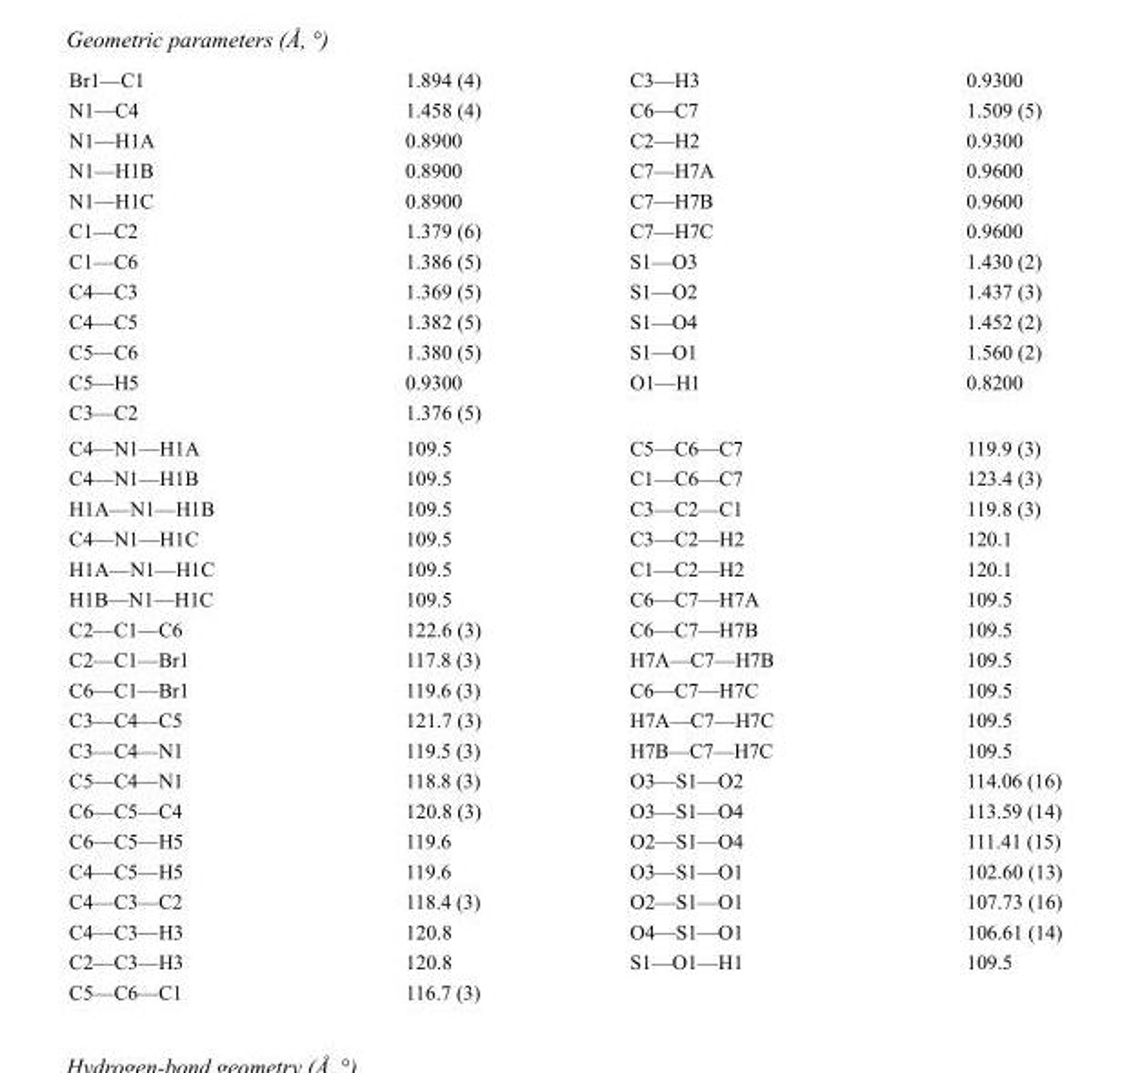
<table><tbody><tr><td>Br1—C1</td><td>1.894 (4)</td><td>C3—H3</td><td>0.9300</td></tr><tr><td>N1—C4</td><td>1.458 (4)</td><td>C6—C7</td><td>1.509 (5)</td></tr><tr><td>N1—H1A</td><td>0.8900</td><td>C2—H2</td><td>0.9300</td></tr><tr><td>N1—H1B</td><td>0.8900</td><td>C7—H7A</td><td>0.9600</td></tr><tr><td>N1—H1C</td><td>0.8900</td><td>C7—H7B</td><td>0.9600</td></tr><tr><td>C1—C2</td><td>1.379 (6)</td><td>C7—H7C</td><td>0.9600</td></tr><tr><td>C1—C6</td><td>1.386 (5)</td><td>S1—O3</td><td>1.430 (2)</td></tr><tr><td>C4—C3</td><td>1.369 (5)</td><td>S1—O2</td><td>1.437 (3)</td></tr><tr><td>C4—C5</td><td>1.382 (5)</td><td>S1—O4</td><td>1.452 (2)</td></tr><tr><td>C5—C6</td><td>1.380 (5)</td><td>S1—O1</td><td>1.560 (2)</td></tr><tr><td>C5—H5</td><td>0.9300</td><td>O1—H1</td><td>0.8200</td></tr><tr><td>C3—C2</td><td>1.376 (5)</td><td></td><td></td></tr><tr><td>C4—N1—H1A</td><td>109.5</td><td>C5—C6—C7</td><td>119.9 (3)</td></tr><tr><td>C4—N1—H1B</td><td>109.5</td><td>C1—C6—C7</td><td>123.4 (3)</td></tr><tr><td>H1A—N1—H1B</td><td>109.5</td><td>C3—C2—C1</td><td>119.8 (3)</td></tr><tr><td>C4—N1—H1C</td><td>109.5</td><td>C3—C2—H2</td><td>120.1</td></tr><tr><td>H1A—N1—H1C</td><td>109.5</td><td>C1—C2—H2</td><td>120.1</td></tr><tr><td>H1B—N1—H1C</td><td>109.5</td><td>C6—C7—H7A</td><td>109.5</td></tr><tr><td>C2—C1—C6</td><td>122.6 (3)</td><td>C6—C7—H7B</td><td>109.5</td></tr><tr><td>C2—C1—Br1</td><td>117.8 (3)</td><td>H7A—C7—H7B</td><td>109.5</td></tr><tr><td>C6—C1—Br1</td><td>119.6 (3)</td><td>C6—C7—H7C</td><td>109.5</td></tr><tr><td>C3—C4—C5</td><td>121.7 (3)</td><td>H7A—C7—H7C</td><td>109.5</td></tr><tr><td>C3—C4—N1</td><td>119.5 (3)</td><td>H7B—C7—H7C</td><td>109.5</td></tr><tr><td>C5—C4—N1</td><td>118.8 (3)</td><td>O3—S1—O2</td><td>114.06 (16)</td></tr><tr><td>C6—C5—C4</td><td>120.8 (3)</td><td>O3—S1—O4</td><td>113.59 (14)</td></tr><tr><td>C6—C5—H5</td><td>119.6</td><td>O2—S1—O4</td><td>111.41 (15)</td></tr><tr><td>C4—C5—H5</td><td>119.6</td><td>O3—S1—O1</td><td>102.60 (13)</td></tr><tr><td>C4—C3—C2</td><td>118.4 (3)</td><td>O2—S1—O1</td><td>107.73 (16)</td></tr><tr><td>C4—C3—H3</td><td>120.8</td><td>O4—S1—O1</td><td>106.61 (14)</td></tr><tr><td>C2—C3—H3</td><td>120.8</td><td>S1—O1—H1</td><td>109.5</td></tr><tr><td>C5—C6—C1</td><td>116.7 (3)</td><td></td><td></td></tr></tbody></table>